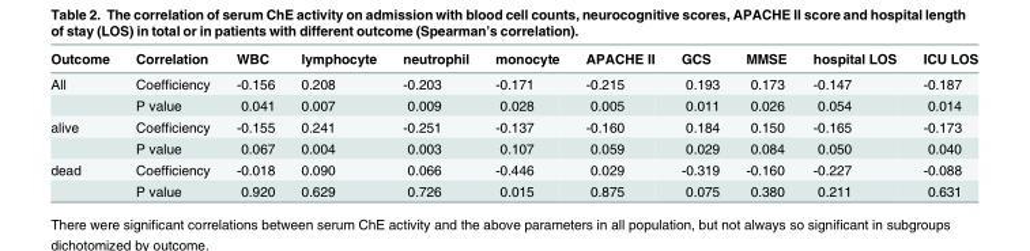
<table><thead><tr><td>Outcome</td><td>Correlation</td><td>WBC</td><td>lymphocyte</td><td>neutrophil</td><td>monocyte</td><td>APACHE II</td><td>GCS</td><td>MMSE</td><td>hospital LOS</td><td>ICU LOS</td></tr></thead><tbody><tr><td rowspan="2">All</td><td>Coefficiency</td><td>-0.156</td><td>0.208</td><td>-0.203</td><td>-0.171</td><td>-0.215</td><td>0.193</td><td>0.173</td><td>-0.147</td><td>-0.187</td></tr><tr><td>P value</td><td>0.041</td><td>0.007</td><td>0.009</td><td>0.028</td><td>0.005</td><td>0.011</td><td>0.026</td><td>0.054</td><td>0.014</td></tr><tr><td rowspan="2">alive</td><td>Coefficiency</td><td>-0.155</td><td>0.241</td><td>-0.251</td><td>-0.137</td><td>-0.160</td><td>0.184</td><td>0.150</td><td>-0.165</td><td>-0.173</td></tr><tr><td>P value</td><td>0.067</td><td>0.004</td><td>0.003</td><td>0.107</td><td>0.059</td><td>0.029</td><td>0.084</td><td>0.050</td><td>0.040</td></tr><tr><td rowspan="2">dead</td><td>Coefficiency</td><td>-0.018</td><td>0.090</td><td>0.066</td><td>-0.446</td><td>0.029</td><td>-0.319</td><td>-0.160</td><td>-0.227</td><td>-0.088</td></tr><tr><td>P value</td><td>0.920</td><td>0.629</td><td>0.726</td><td>0.015</td><td>0.875</td><td>0.075</td><td>0.380</td><td>0.211</td><td>0.631</td></tr></tbody></table>